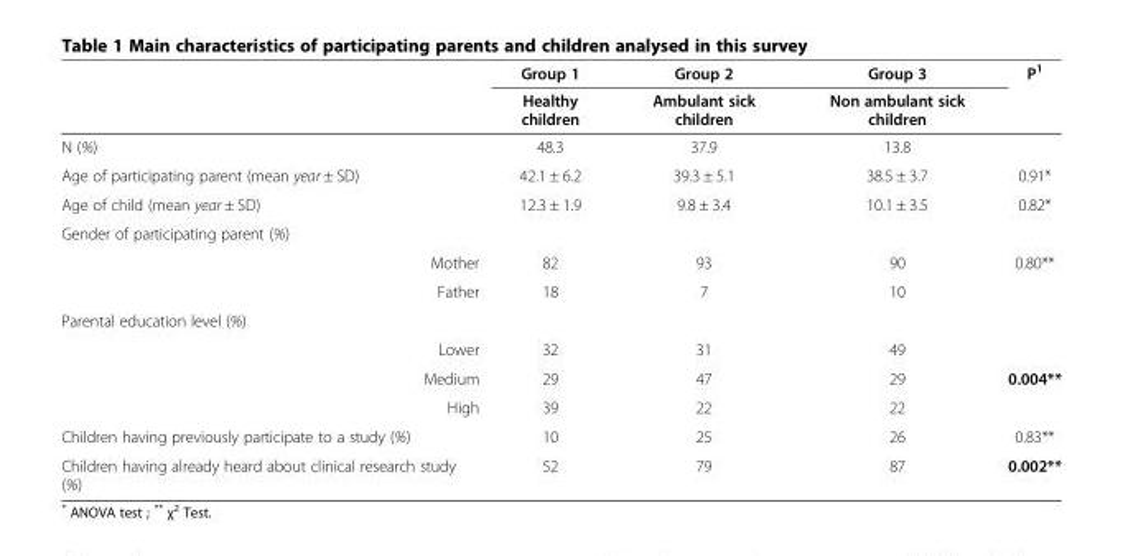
<table><thead><tr><td rowspan="2"></td><td rowspan="2">Group 1 Healthy children</td><td rowspan="2">Group 2 Ambulant sick children</td><td rowspan="2">Group 3 Non ambulant sick children</td><td rowspan="2">P<sup>1</sup></td></tr><tr></tr></thead><tbody><tr><td>N (%)</td><td>48.3</td><td>37.9</td><td>13.8</td><td></td></tr><tr><td>Age of participating parent (mean year ± SD)</td><td>42.1 ± 6.2</td><td>39.3 ± 5.1</td><td>38.5 ± 3.7</td><td>0.91*</td></tr><tr><td>Age of child (mean year ± SD)</td><td>12.3 ± 1.9</td><td>9.8 ± 3.4</td><td>10.1 ± 3.5</td><td>0.82*</td></tr><tr><td colspan="5">Gender of participating parent (%)</td></tr><tr><td>Mother</td><td>82</td><td>93</td><td>90</td><td>0.80**</td></tr><tr><td>Father</td><td>18</td><td>7</td><td>10</td><td></td></tr><tr><td colspan="5">Parental education level (%)</td></tr><tr><td>Lower</td><td>32</td><td>31</td><td>49</td><td></td></tr><tr><td>Medium</td><td>29</td><td>47</td><td>29</td><td>0.004**</td></tr><tr><td>High</td><td>39</td><td>22</td><td>22</td><td></td></tr><tr><td>Children having previously participate to a study (%)</td><td>10</td><td>25</td><td>26</td><td>0.83**</td></tr><tr><td>Children having already heard about clinical research study (%)</td><td>52</td><td>79</td><td>87</td><td>0.002**</td></tr></tbody></table>